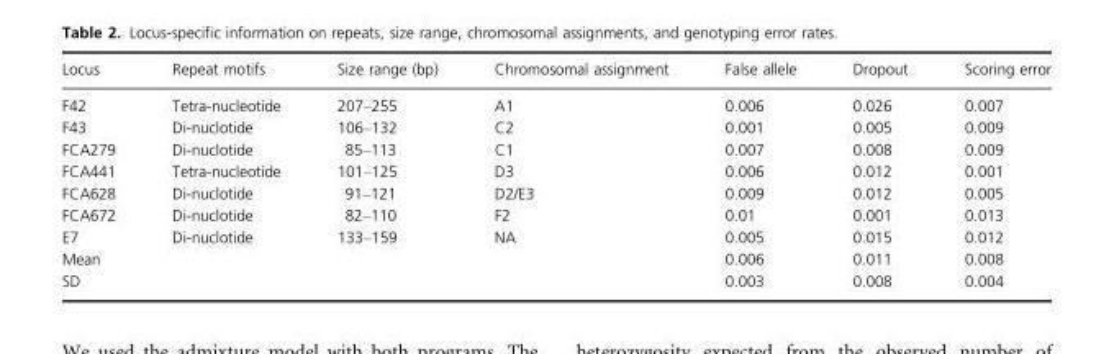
<table><thead><tr><td>Locus</td><td>Repeat motifs</td><td>Size range (bp)</td><td>Chromosomal assignment</td><td>False allele</td><td>Dropout</td><td>Scoring error</td></tr></thead><tbody><tr><td>F42</td><td>Tetra-nucleotide</td><td>207–255</td><td>A1</td><td>0.006</td><td>0.026</td><td>0.007</td></tr><tr><td>F43</td><td>Di-nuclotide</td><td>106–132</td><td>C2</td><td>0.001</td><td>0.005</td><td>0.009</td></tr><tr><td>FCA279</td><td>Di-nuclotide</td><td>85–113</td><td>C1</td><td>0.007</td><td>0.008</td><td>0.009</td></tr><tr><td>FCA441</td><td>Tetra-nucleotide</td><td>101–125</td><td>D3</td><td>0.006</td><td>0.012</td><td>0.001</td></tr><tr><td>FCA628</td><td>Di-nuclotide</td><td>91–121</td><td>D2/E3</td><td>0.009</td><td>0.012</td><td>0.005</td></tr><tr><td>FCA672</td><td>Di-nuclotide</td><td>82–110</td><td>F2</td><td>0.01</td><td>0.001</td><td>0.013</td></tr><tr><td>E7</td><td>Di-nuclotide</td><td>133–159</td><td>NA</td><td>0.005</td><td>0.015</td><td>0.012</td></tr><tr><td>Mean</td><td></td><td></td><td></td><td>0.006</td><td>0.011</td><td>0.008</td></tr><tr><td>SD</td><td></td><td></td><td></td><td>0.003</td><td>0.008</td><td>0.004</td></tr></tbody></table>